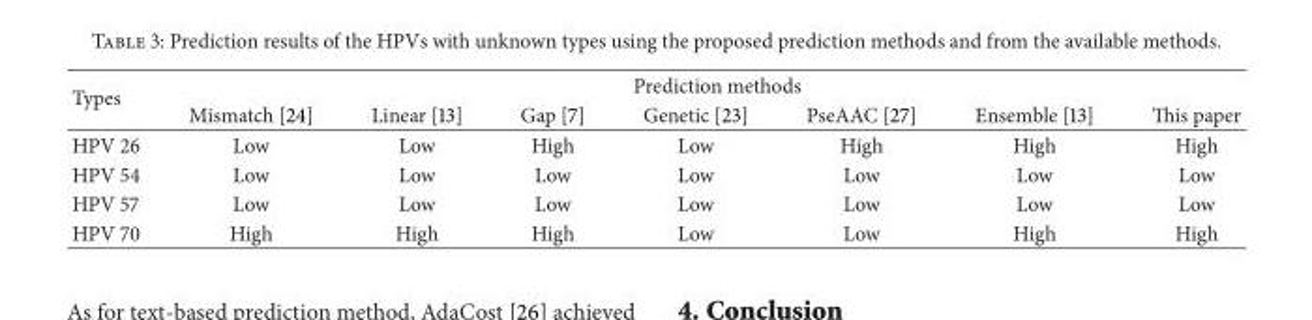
<table><thead><tr><td rowspan="2">Types</td><td colspan="7">Prediction methods</td></tr><tr><td>Mismatch [24]</td><td>Linear [13]</td><td>Gap [7]</td><td>Genetic [23]</td><td>PseAAC [27]</td><td>Ensemble [13]</td><td>This paper</td></tr></thead><tbody><tr><td>HPV 26</td><td>Low</td><td>Low</td><td>High</td><td>Low</td><td>High</td><td>High</td><td>High</td></tr><tr><td>HPV 54</td><td>Low</td><td>Low</td><td>Low</td><td>Low</td><td>Low</td><td>Low</td><td>Low</td></tr><tr><td>HPV 57</td><td>Low</td><td>Low</td><td>Low</td><td>Low</td><td>Low</td><td>Low</td><td>Low</td></tr><tr><td>HPV 70</td><td>High</td><td>High</td><td>High</td><td>Low</td><td>Low</td><td>High</td><td>High</td></tr></tbody></table>